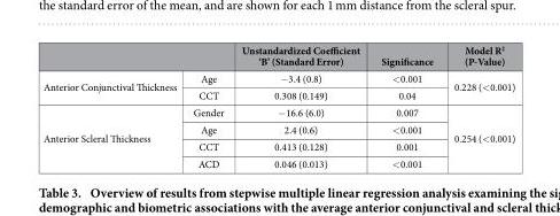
<table><thead><tr><td></td><td></td><td>Unstandardized Coefficient ‘B’ (Standard Error)</td><td>Significance</td><td>Model R<sup>2</sup> (P-Value)</td></tr></thead><tbody><tr><td rowspan="2">Anterior Conjunctival Thickness</td><td>Age</td><td>− 3.4 (0.8)</td><td>&lt; 0.001</td><td rowspan="2">0.228 (&lt; 0.001)</td></tr><tr><td>CCT</td><td>0.308 (0.149)</td><td>0.04</td></tr><tr><td rowspan="4">Anterior Scleral Thickness</td><td>Gender</td><td>− 16.6 (6.0)</td><td>0.007</td><td rowspan="4">0.254 (&lt; 0.001)</td></tr><tr><td>Age</td><td>2.4 (0.6)</td><td>&lt; 0.001</td></tr><tr><td>CCT</td><td>0.413 (0.128)</td><td>0.001</td></tr><tr><td>ACD</td><td>0.046 (0.013)</td><td>&lt; 0.001</td></tr></tbody></table>